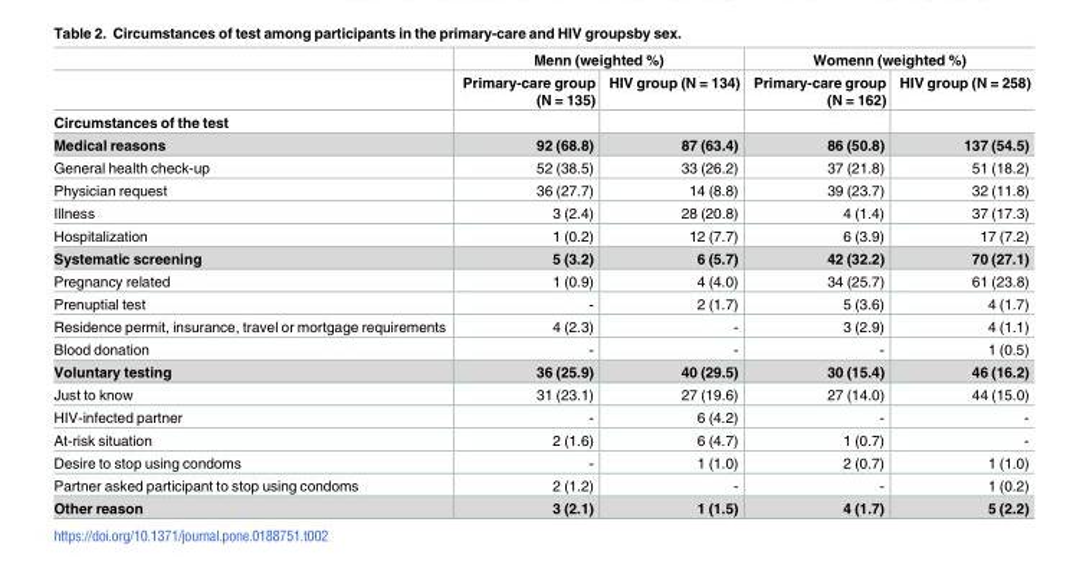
<table><thead><tr><td rowspan="3">Circumstances of the test</td><td colspan="2">Menn (weighted %)</td><td colspan="2">Womenn (weighted %)</td></tr><tr><td rowspan="2">Primary-care group (N = 135)</td><td rowspan="2">HIV group (N = 134)</td><td rowspan="2">Primary-care group (N = 162)</td><td rowspan="2">HIV group (N = 258)</td></tr><tr></tr></thead><tbody><tr><td>Medical reasons</td><td>92 (68.8)</td><td>87 (63.4)</td><td>86 (50.8)</td><td>137 (54.5)</td></tr><tr><td>General health check-up</td><td>52 (38.5)</td><td>33 (26.2)</td><td>37 (21.8)</td><td>51 (18.2)</td></tr><tr><td>Physician request</td><td>36 (27.7)</td><td>14 (8.8)</td><td>39 (23.7)</td><td>32 (11.8)</td></tr><tr><td>Illness</td><td>3 (2.4)</td><td>28 (20.8)</td><td>4 (1.4)</td><td>37 (17.3)</td></tr><tr><td>Hospitalization</td><td>1 (0.2)</td><td>12 (7.7)</td><td>6 (3.9)</td><td>17 (7.2)</td></tr><tr><td>Systematic screening</td><td>5 (3.2)</td><td>6 (5.7)</td><td>42 (32.2)</td><td>70 (27.1)</td></tr><tr><td>Pregnancy related</td><td>1 (0.9)</td><td>4 (4.0)</td><td>34 (25.7)</td><td>61 (23.8)</td></tr><tr><td>Prenuptial test</td><td>-</td><td>2 (1.7)</td><td>5 (3.6)</td><td>4 (1.7)</td></tr><tr><td>Residence permit, insurance, travel or mortgage requirements</td><td>4 (2.3)</td><td>-</td><td>3 (2.9)</td><td>4 (1.1)</td></tr><tr><td>Blood donation</td><td>-</td><td>-</td><td>-</td><td>1 (0.5)</td></tr><tr><td>Voluntary testing</td><td>36 (25.9)</td><td>40 (29.5)</td><td>30 (15.4)</td><td>46 (16.2)</td></tr><tr><td>Just to know</td><td>31 (23.1)</td><td>27 (19.6)</td><td>27 (14.0)</td><td>44 (15.0)</td></tr><tr><td>HIV-infected partner</td><td>-</td><td>6 (4.2)</td><td>-</td><td>-</td></tr><tr><td>At-risk situation</td><td>2 (1.6)</td><td>6 (4.7)</td><td>1 (0.7)</td><td>-</td></tr><tr><td>Desire to stop using condoms</td><td>-</td><td>1 (1.0)</td><td>2 (0.7)</td><td>1 (1.0)</td></tr><tr><td>Partner asked participant to stop using condoms</td><td>2 (1.2)</td><td>-</td><td>-</td><td>1 (0.2)</td></tr><tr><td>Other reason</td><td>3 (2.1)</td><td>1 (1.5)</td><td>4 (1.7)</td><td>5 (2.2)</td></tr></tbody></table>